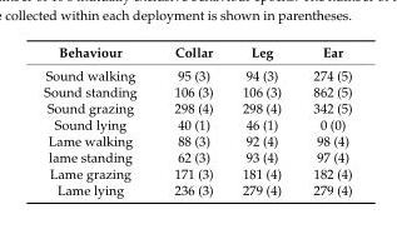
<table><thead><tr><td>Behaviour</td><td>Collar</td><td>Leg</td><td>Ear</td></tr></thead><tbody><tr><td>Sound walking</td><td>95 (3)</td><td>94 (3)</td><td>274 (5)</td></tr><tr><td>Sound standing</td><td>106 (3)</td><td>106 (3)</td><td>862 (5)</td></tr><tr><td>Sound grazing</td><td>298 (4)</td><td>298 (4)</td><td>342 (5)</td></tr><tr><td>Sound lying</td><td>40 (1)</td><td>46 (1)</td><td>0 (0)</td></tr><tr><td>Lame walking</td><td>88 (3)</td><td>92 (4)</td><td>98 (4)</td></tr><tr><td>lame standing</td><td>62 (3)</td><td>93 (4)</td><td>97 (4)</td></tr><tr><td>Lame grazing</td><td>171 (3)</td><td>181 (4)</td><td>182 (4)</td></tr><tr><td>Lame lying</td><td>236 (3)</td><td>279 (4)</td><td>279 (4)</td></tr></tbody></table>